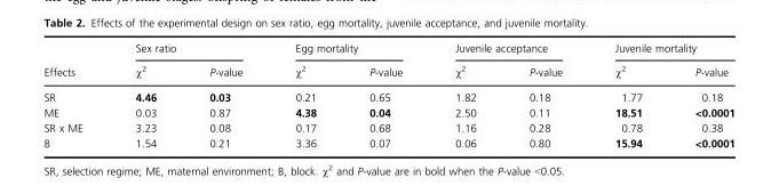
<table><thead><tr><td rowspan="2">Effects</td><td colspan="2">Sex ratio</td><td colspan="2">Egg mortality</td><td colspan="2">Juvenile acceptance</td><td colspan="2">Juvenile mortality</td></tr><tr><td>χ<sup>2</sup></td><td>P-value</td><td>χ<sup>2</sup></td><td>P-value</td><td>χ<sup>2</sup></td><td>P-value</td><td>χ<sup>2</sup></td><td>P-value</td></tr></thead><tbody><tr><td>SR</td><td>4.46</td><td>0.03</td><td>0.21</td><td>0.65</td><td>1.82</td><td>0.18</td><td>1.77</td><td>0.18</td></tr><tr><td>ME</td><td>0.03</td><td>0.87</td><td>4.38</td><td>0.04</td><td>2.50</td><td>0.11</td><td>18.51</td><td>&lt;0.0001</td></tr><tr><td>SR x ME</td><td>3.23</td><td>0.08</td><td>0.17</td><td>0.68</td><td>1.16</td><td>0.28</td><td>0.78</td><td>0.38</td></tr><tr><td>B</td><td>1.54</td><td>0.21</td><td>3.36</td><td>0.07</td><td>0.06</td><td>0.80</td><td>15.94</td><td>&lt;0.0001</td></tr></tbody></table>